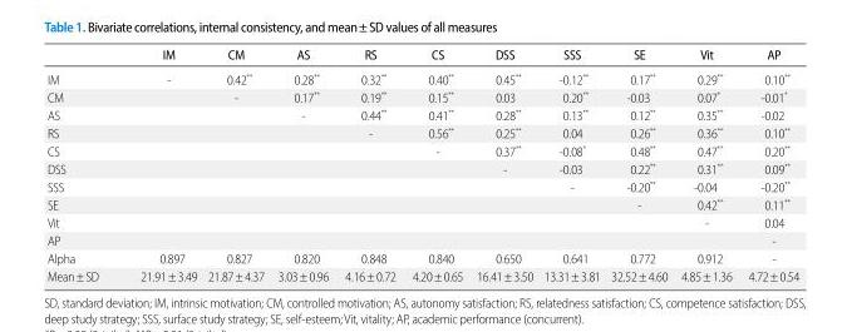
<table><thead><tr><td></td><td>IM</td><td>CM</td><td>AS</td><td>RS</td><td>CS</td><td>DSS</td><td>SSS</td><td>SE</td><td>Vit</td><td>AP</td></tr></thead><tbody><tr><td>IM</td><td>-</td><td>0.42**</td><td>0.28**</td><td>0.32**</td><td>0.40**</td><td>0.45**</td><td>-0.12**</td><td>0.17**</td><td>0.29**</td><td>0.10**</td></tr><tr><td>CM</td><td></td><td>-</td><td>0.17**</td><td>0.19**</td><td>0.15**</td><td>0.03</td><td>0.20**</td><td>-0.03</td><td>0.07*</td><td>-0.01*</td></tr><tr><td>AS</td><td></td><td></td><td>-</td><td>0.44**</td><td>0.41**</td><td>0.28**</td><td>0.13**</td><td>0.12**</td><td>0.35**</td><td>-0.02</td></tr><tr><td>RS</td><td></td><td></td><td></td><td>-</td><td>0.56**</td><td>0.25**</td><td>0.04</td><td>0.26**</td><td>0.36**</td><td>0.10**</td></tr><tr><td>CS</td><td></td><td></td><td></td><td></td><td>-</td><td>0.37**</td><td>-0.08*</td><td>0.48**</td><td>0.47**</td><td>0.20**</td></tr><tr><td>DSS</td><td></td><td></td><td></td><td></td><td></td><td>-</td><td>-0.03</td><td>0.22**</td><td>0.31**</td><td>0.09**</td></tr><tr><td>SSS</td><td></td><td></td><td></td><td></td><td></td><td></td><td>-</td><td>-0.20**</td><td>-0.04</td><td>-0.20**</td></tr><tr><td>SE</td><td></td><td></td><td></td><td></td><td></td><td></td><td></td><td>-</td><td>0.42**</td><td>0.11**</td></tr><tr><td>Vit</td><td></td><td></td><td></td><td></td><td></td><td></td><td></td><td></td><td>-</td><td>0.04</td></tr><tr><td>AP</td><td></td><td></td><td></td><td></td><td></td><td></td><td></td><td></td><td></td><td>-</td></tr><tr><td>Alpha</td><td>0.897</td><td>0.827</td><td>0.820</td><td>0.848</td><td>0.840</td><td>0.650</td><td>0.641</td><td>0.772</td><td>0.912</td><td>-</td></tr><tr><td>Mean±SD</td><td>21.91±3.49</td><td>21.87±4.37</td><td>3.03±0.96</td><td>4.16±0.72</td><td>4.20±0.65</td><td>16.41±3.50</td><td>13.31±3.81</td><td>32.52±4.60</td><td>4.85±1.36</td><td>4.72±0.54</td></tr></tbody></table>